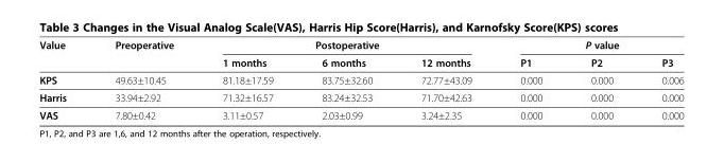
<table><thead><tr><td rowspan="2">Value</td><td rowspan="2">Preoperative</td><td colspan="3">Postoperative</td><td colspan="3">P value</td></tr><tr><td>1 months</td><td>6 months</td><td>12 months</td><td>P1</td><td>P2</td><td>P3</td></tr></thead><tbody><tr><td>KPS</td><td>49.63±10.45</td><td>81.18±17.59</td><td>83.75±32.60</td><td>72.77±43.09</td><td>0.000</td><td>0.000</td><td>0.006</td></tr><tr><td>Harris</td><td>33.94±2.92</td><td>71.32±16.57</td><td>83.24±32.53</td><td>71.70±42.63</td><td>0.000</td><td>0.000</td><td>0.000</td></tr><tr><td>VAS</td><td>7.80±0.42</td><td>3.11±0.57</td><td>2.03±0.99</td><td>3.24±2.35</td><td>0.000</td><td>0.000</td><td>0.000</td></tr></tbody></table>